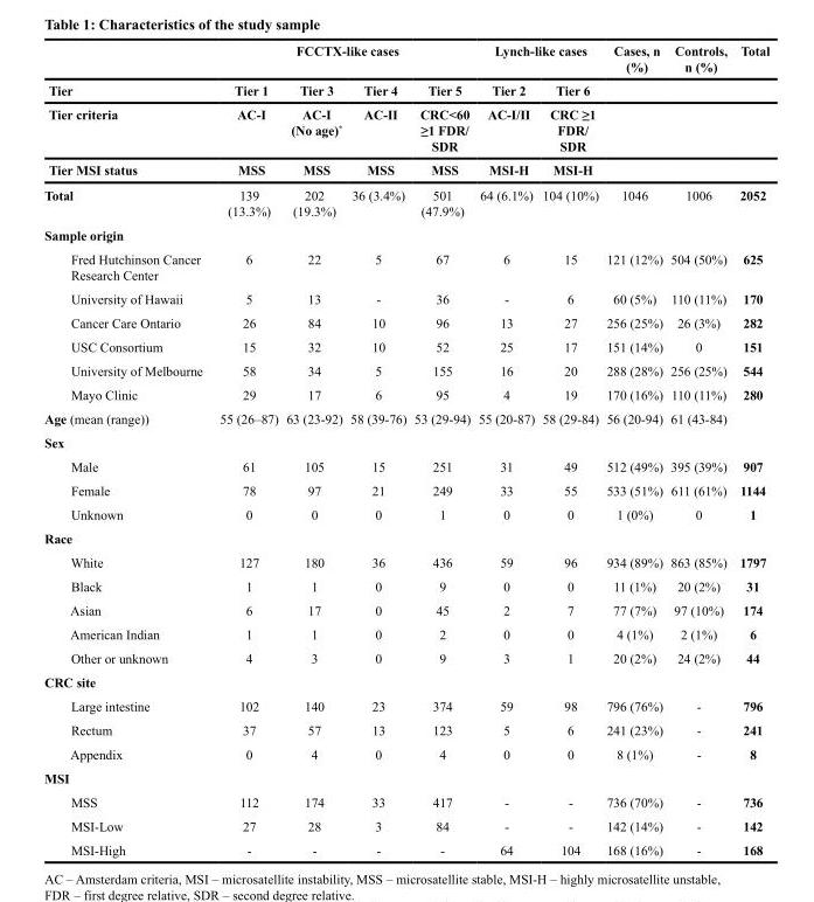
<table><thead><tr><td rowspan="4">Tier Tier criteria Tier MSI status</td><td colspan="4">FCCTX-like cases</td><td colspan="2">Lynch-like cases</td><td rowspan="4">Cases, n (%)</td><td rowspan="4">Controls, n (%)</td><td rowspan="4">Total</td></tr><tr><td rowspan="3">Tier 1 AC-I MSS</td><td rowspan="3">Tier 3 AC-I (No age)* MSS</td><td rowspan="3">Tier 4 AC-II MSS</td><td rowspan="3">Tier 5 CRC&lt;60 ≥1 FDR/ SDR MSS</td><td rowspan="3">Tier 2 AC-I/II MSI-H</td><td rowspan="3">Tier 6 CRC ≥1 FDR/ SDR MSI-H</td></tr><tr></tr><tr></tr></thead><tbody><tr><td>Total</td><td>139 (13.3%)</td><td>202 (19.3%)</td><td>36 (3.4%)</td><td>501 (47.9%)</td><td>64 (6.1%)</td><td>104 (10%)</td><td>1046</td><td>1006</td><td>2052</td></tr><tr><td colspan="10">Sample origin</td></tr><tr><td>Fred Hutchinson Cancer Research Center</td><td>6</td><td>22</td><td>5</td><td>67</td><td>6</td><td>15</td><td>121 (12%)</td><td>504 (50%)</td><td>625</td></tr><tr><td>University of Hawaii</td><td>5</td><td>13</td><td>-</td><td>36</td><td>-</td><td>6</td><td>60 (5%)</td><td>110 (11%)</td><td>170</td></tr><tr><td>Cancer Care Ontario</td><td>26</td><td>84</td><td>10</td><td>96</td><td>13</td><td>27</td><td>256 (25%)</td><td>26 (3%)</td><td>282</td></tr><tr><td>USC Consortium</td><td>15</td><td>32</td><td>10</td><td>52</td><td>25</td><td>17</td><td>151 (14%)</td><td>0</td><td>151</td></tr><tr><td>University of Melbourne</td><td>58</td><td>34</td><td>5</td><td>155</td><td>16</td><td>20</td><td>288 (28%)</td><td>256 (25%)</td><td>544</td></tr><tr><td>Mayo Clinic</td><td>29</td><td>17</td><td>6</td><td>95</td><td>4</td><td>19</td><td>170 (16%)</td><td>110 (11%)</td><td>280</td></tr><tr><td>Age (mean (range))</td><td>55 (26–87)</td><td>63 (23-92)</td><td>58 (39-76)</td><td>53 (29-94)</td><td>55 (20-87)</td><td>58 (29-84)</td><td>56 (20-94)</td><td>61 (43-84)</td><td></td></tr><tr><td colspan="10">Sex</td></tr><tr><td>Male</td><td>61</td><td>105</td><td>15</td><td>251</td><td>31</td><td>49</td><td>512 (49%)</td><td>395 (39%)</td><td>907</td></tr><tr><td>Female</td><td>78</td><td>97</td><td>21</td><td>249</td><td>33</td><td>55</td><td>533 (51%)</td><td>611 (61%)</td><td>1144</td></tr><tr><td>Unknown</td><td>0</td><td>0</td><td>0</td><td>1</td><td>0</td><td>0</td><td>1 (0%)</td><td>0</td><td>1</td></tr><tr><td colspan="10">Race</td></tr><tr><td>White</td><td>127</td><td>180</td><td>36</td><td>436</td><td>59</td><td>96</td><td>934 (89%)</td><td>863 (85%)</td><td>1797</td></tr><tr><td>Black</td><td>1</td><td>1</td><td>0</td><td>9</td><td>0</td><td>0</td><td>11 (1%)</td><td>20 (2%)</td><td>31</td></tr><tr><td>Asian</td><td>6</td><td>17</td><td>0</td><td>45</td><td>2</td><td>7</td><td>77 (7%)</td><td>97 (10%)</td><td>174</td></tr><tr><td>American Indian</td><td>1</td><td>1</td><td>0</td><td>2</td><td>0</td><td>0</td><td>4 (1%)</td><td>2 (1%)</td><td>6</td></tr><tr><td>Other or unknown</td><td>4</td><td>3</td><td>0</td><td>9</td><td>3</td><td>1</td><td>20 (2%)</td><td>24 (2%)</td><td>44</td></tr><tr><td colspan="10">CRC site</td></tr><tr><td>Large intestine</td><td>102</td><td>140</td><td>23</td><td>374</td><td>59</td><td>98</td><td>796 (76%)</td><td>-</td><td>796</td></tr><tr><td>Rectum</td><td>37</td><td>57</td><td>13</td><td>123</td><td>5</td><td>6</td><td>241 (23%)</td><td>-</td><td>241</td></tr><tr><td>Appendix</td><td>0</td><td>4</td><td>0</td><td>4</td><td>0</td><td>0</td><td>8 (1%)</td><td>-</td><td>8</td></tr><tr><td colspan="10">MSI</td></tr><tr><td>MSS</td><td>112</td><td>174</td><td>33</td><td>417</td><td>-</td><td>-</td><td>736 (70%)</td><td>-</td><td>736</td></tr><tr><td>MSI-Low</td><td>27</td><td>28</td><td>3</td><td>84</td><td>-</td><td>-</td><td>142 (14%)</td><td>-</td><td>142</td></tr><tr><td>MSI-High</td><td>-</td><td>-</td><td>-</td><td>-</td><td>64</td><td>104</td><td>168 (16%)</td><td>-</td><td>168</td></tr></tbody></table>